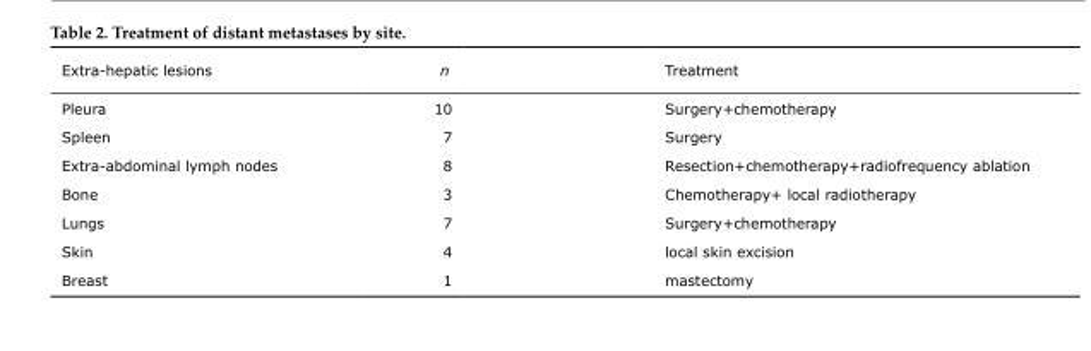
<table><thead><tr><td>Extra-hepatic lesions</td><td>n</td><td>Treatment</td></tr></thead><tbody><tr><td>Pleura Spleen Extra-abdominal lymph nodes Bone Lungs Skin Breast</td><td>10 7 8 3 7 4 1</td><td>Surgery+chemotherapy Surgery Resection+chemotherapy+radiofrequency ablation Chemotherapy+ local radiotherapy Surgery+chemotherapy local skin excision mastectomy</td></tr></tbody></table>